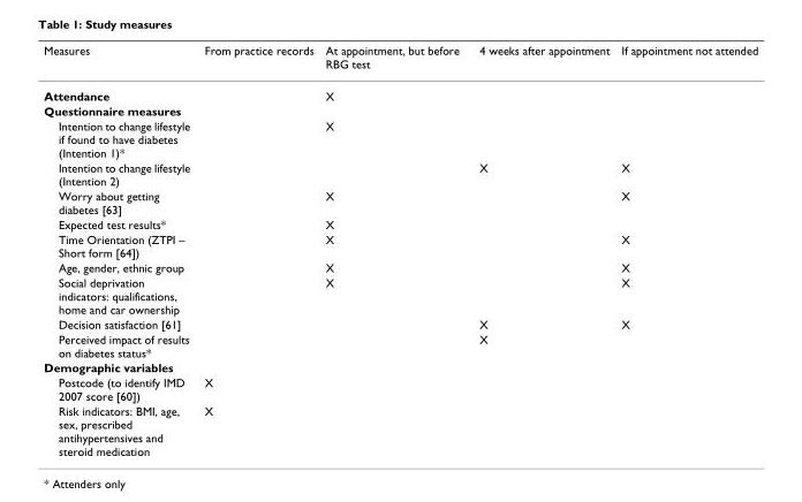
<table><thead><tr><td>Measures</td><td>From practice records</td><td>At appointment, but before RBG test</td><td>4 weeks after appointment</td><td>If appointment not attended</td></tr></thead><tbody><tr><td>Attendance</td><td></td><td>X</td><td></td><td></td></tr><tr><td colspan="5">Questionnaire measures</td></tr><tr><td>Intention to change lifestyle if found to have diabetes (Intention 1)*</td><td></td><td>X</td><td></td><td></td></tr><tr><td>Intention to change lifestyle (Intention 2)</td><td></td><td></td><td>X</td><td>X</td></tr><tr><td>Worry about getting diabetes [63]</td><td></td><td>X</td><td></td><td>X</td></tr><tr><td>Expected test results*</td><td></td><td>X</td><td></td><td></td></tr><tr><td>Time Orientation (ZTPI – Short form [64])</td><td></td><td>X</td><td></td><td>X</td></tr><tr><td>Age, gender, ethnic group</td><td></td><td>X</td><td></td><td>X</td></tr><tr><td>Social deprivation indicators: qualifications, home and car ownership</td><td></td><td>X</td><td></td><td>X</td></tr><tr><td>Decision satisfaction [61]</td><td></td><td></td><td>X</td><td>X</td></tr><tr><td>Perceived impact of results on diabetes status*</td><td></td><td></td><td>X</td><td></td></tr><tr><td colspan="5">Demographic variables</td></tr><tr><td>Postcode (to identify IMD 2007 score [60])</td><td>X</td><td></td><td></td><td></td></tr><tr><td>Risk indicators: BMI, age, sex, prescribed antihypertensives and steroid medication</td><td>X</td><td></td><td></td><td></td></tr></tbody></table>